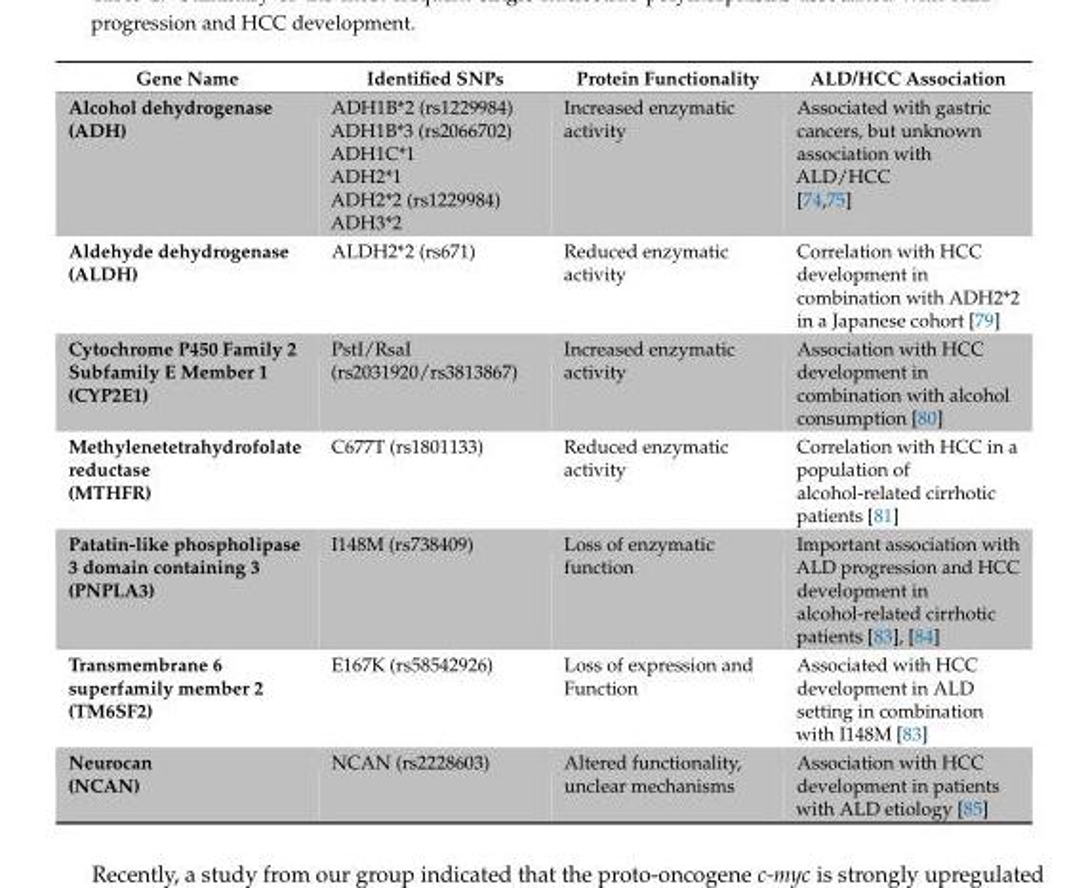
<table><thead><tr><td>Gene Name</td><td>Identified SNPs</td><td>Protein Functionality</td><td>ALD/HCC Association</td></tr></thead><tbody><tr><td>Alcohol dehydrogenase (ADH)</td><td>ADH1B*2 (rs1229984) ADH1B*3 (rs2066702) ADH1C*1 ADH2*1 ADH2*2 (rs1229984) ADH3*2</td><td>Increased enzymatic activity</td><td>Associated with gastric cancers, but unknown association with ALD/HCC [74,75]</td></tr><tr><td>Aldehyde dehydrogenase (ALDH)</td><td>ALDH2*2 (rs671)</td><td>Reduced enzymatic activity</td><td>Correlation with HCC development in combination with ADH2*2 in a Japanese cohort [79]</td></tr><tr><td>Cytochrome P450 Family 2 Subfamily E Member 1 (CYP2E1)</td><td>PstI/RsaI (rs2031920/rs3813867)</td><td>Increased enzymatic activity</td><td>Association with HCC development in combination with alcohol consumption [80]</td></tr><tr><td>Methylenetetrahydrofolate reductase (MTHFR)</td><td>C677T (rs1801133)</td><td>Reduced enzymatic activity</td><td>Correlation with HCC in a population of alcohol-related cirrhotic patients [81]</td></tr><tr><td>Patatin-like phospholipase 3 domain containing 3 (PNPLA3)</td><td>I148M (rs738409)</td><td>Loss of enzymatic function</td><td>Important association with ALD progression and HCC development in alcohol-related cirrhotic patients [83], [84]</td></tr><tr><td>Transmembrane 6 superfamily member 2 (TM6SF2)</td><td>E167K (rs58542926)</td><td>Loss of expression and Function</td><td>Associated with HCC development in ALD setting in combination with I148M [83]</td></tr><tr><td>Neurocan (NCAN)</td><td>NCAN (rs2228603)</td><td>Altered functionality, unclear mechanisms</td><td>Association with HCC development in patients with ALD etiology [85]</td></tr></tbody></table>